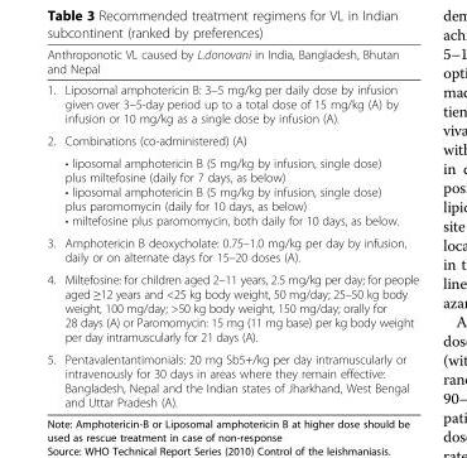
<table><thead><tr><td colspan="2">Anthroponotic VL caused by L.donovani in India, Bangladesh, Bhutan and Nepal</td></tr><tr><td>1.</td><td>Liposomal amphotericin B: 3–5 mg/kg per daily dose by infusion given over 3–5-day period up to a total dose of 15 mg/kg (A) by infusion or 10 mg/kg as a single dose by infusion (A).</td></tr></thead><tbody><tr><td rowspan="2">2.</td><td>Combinations (co-administered) (A)</td></tr><tr><td>• liposomal amphotericin B (5 mg/kg by infusion, single dose) plus miltefosine (daily for 7 days, as below) • liposomal amphotericin B (5 mg/kg by infusion, single dose) plus paromomycin (daily for 10 days, as below) • miltefosine plus paromomycin, both daily for 10 days, as below.</td></tr><tr><td>3.</td><td>Amphotericin B deoxycholate: 0.75–1.0 mg/kg per day by infusion, daily or on alternate days for 15–20 doses (A).</td></tr><tr><td>4.</td><td>Miltefosine: for children aged 2–11 years, 2.5 mg/kg per day; for people aged ≥12 years and &lt;25 kg body weight, 50 mg/day; 25–50 kg body weight, 100 mg/day; &gt;50 kg body weight, 150 mg/day; orally for 28 days (A) or Paromomycin: 15 mg (11 mg base) per kg body weight per day intramuscularly for 21 days (A).</td></tr><tr><td>5.</td><td>Pentavalentantimonials: 20 mg Sb5+/kg per day intramuscularly or intravenously for 30 days in areas where they remain effective: Bangladesh, Nepal and the Indian states of Jharkhand, West Bengal and Uttar Pradesh (A).</td></tr></tbody></table>